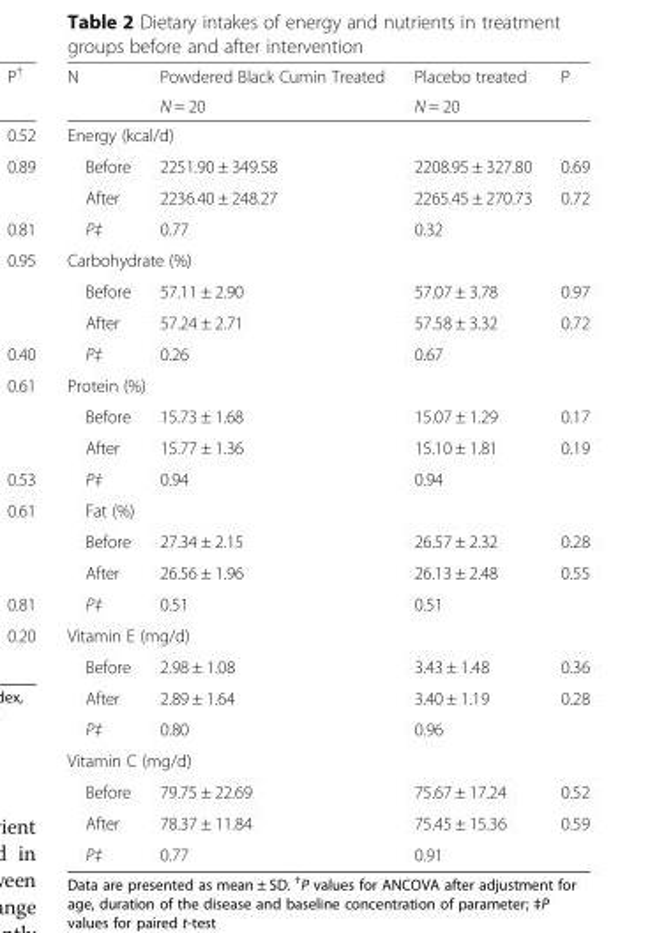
<table><thead><tr><td rowspan="2">N</td><td rowspan="2">Powdered Black Cumin Treated N = 20</td><td rowspan="2">Placebo treated N = 20</td><td rowspan="2">P</td></tr><tr></tr></thead><tbody><tr><td colspan="4">Energy (kcal/d)</td></tr><tr><td>Before</td><td>2251.90 ± 349.58</td><td>2208.95 ± 327.80</td><td>0.69</td></tr><tr><td>After</td><td>2236.40 ± 248.27</td><td>2265.45 ± 270.73</td><td>0.72</td></tr><tr><td>P‡</td><td>0.77</td><td>0.32</td><td></td></tr><tr><td colspan="4">Carbohydrate (%)</td></tr><tr><td>Before</td><td>57.11 ± 2.90</td><td>57.07 ± 3.78</td><td>0.97</td></tr><tr><td>After</td><td>57.24 ± 2.71</td><td>57.58 ± 3.32</td><td>0.72</td></tr><tr><td>P‡</td><td>0.26</td><td>0.67</td><td></td></tr><tr><td colspan="4">Protein (%)</td></tr><tr><td>Before</td><td>15.73 ± 1.68</td><td>15.07 ± 1.29</td><td>0.17</td></tr><tr><td>After</td><td>15.77 ± 1.36</td><td>15.10 ± 1.81</td><td>0.19</td></tr><tr><td>P‡</td><td>0.94</td><td>0.94</td><td></td></tr><tr><td colspan="4">Fat (%)</td></tr><tr><td>Before</td><td>27.34 ± 2.15</td><td>26.57 ± 2.32</td><td>0.28</td></tr><tr><td>After</td><td>26.56 ± 1.96</td><td>26.13 ± 2.48</td><td>0.55</td></tr><tr><td>P‡</td><td>0.51</td><td>0.51</td><td></td></tr><tr><td colspan="4">Vitamin E (mg/d)</td></tr><tr><td>Before</td><td>2.98 ± 1.08</td><td>3.43 ± 1.48</td><td>0.36</td></tr><tr><td>After</td><td>2.89 ± 1.64</td><td>3.40 ± 1.19</td><td>0.28</td></tr><tr><td>P‡</td><td>0.80</td><td>0.96</td><td></td></tr><tr><td colspan="4">Vitamin C (mg/d)</td></tr><tr><td>Before</td><td>79.75 ± 22.69</td><td>75.67 ± 17.24</td><td>0.52</td></tr><tr><td>After</td><td>78.37 ± 11.84</td><td>75.45 ± 15.36</td><td>0.59</td></tr><tr><td>P‡</td><td>0.77</td><td>0.91</td><td></td></tr></tbody></table>